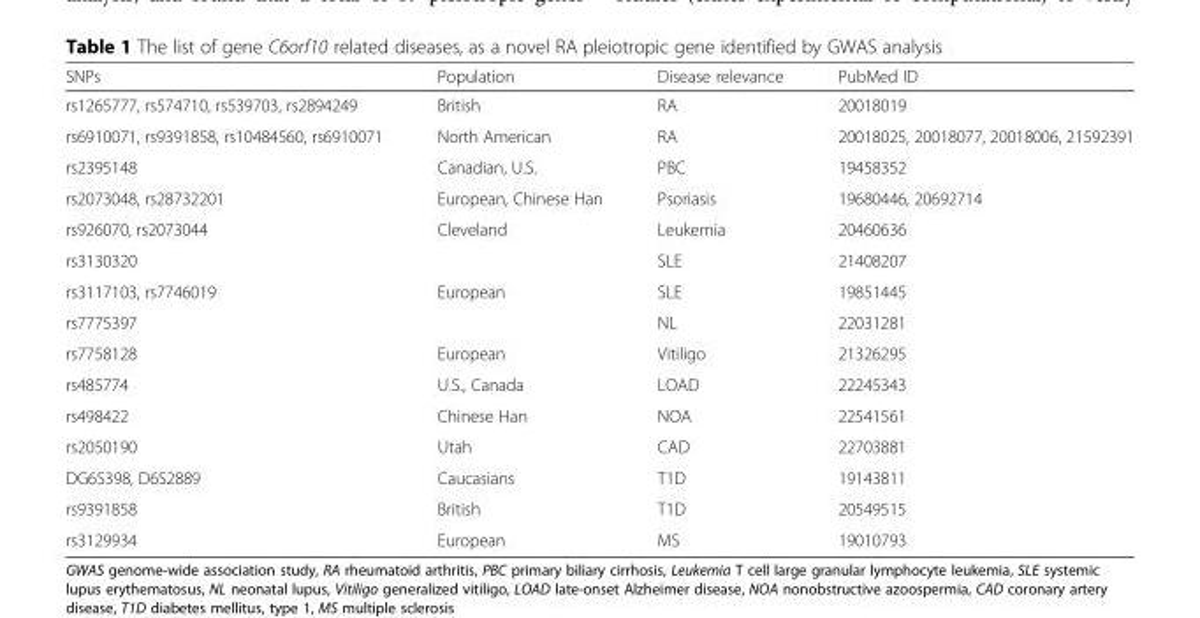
<table><thead><tr><td>SNPs</td><td>Population</td><td>Disease relevance</td><td>PubMed ID</td></tr></thead><tbody><tr><td>rs1265777, rs574710, rs539703, rs2894249</td><td>British</td><td>RA</td><td>20018019</td></tr><tr><td>rs6910071, rs9391858, rs10484560, rs6910071</td><td>North American</td><td>RA</td><td>20018025, 20018077, 20018006, 21592391</td></tr><tr><td>rs2395148</td><td>Canadian, U.S.</td><td>PBC</td><td>19458352</td></tr><tr><td>rs2073048, rs28732201</td><td>European, Chinese Han</td><td>Psoriasis</td><td>19680446, 20692714</td></tr><tr><td>rs926070, rs2073044</td><td>Cleveland</td><td>Leukemia</td><td>20460636</td></tr><tr><td>rs3130320</td><td></td><td>SLE</td><td>21408207</td></tr><tr><td>rs3117103, rs7746019</td><td>European</td><td>SLE</td><td>19851445</td></tr><tr><td>rs7775397</td><td></td><td>NL</td><td>22031281</td></tr><tr><td>rs7758128</td><td>European</td><td>Vitiligo</td><td>21326295</td></tr><tr><td>rs485774</td><td>U.S., Canada</td><td>LOAD</td><td>22245343</td></tr><tr><td>rs498422</td><td>Chinese Han</td><td>NOA</td><td>22541561</td></tr><tr><td>rs2050190</td><td>Utah</td><td>CAD</td><td>22703881</td></tr><tr><td>DG6S398, D6S2889</td><td>Caucasians</td><td>T1D</td><td>19143811</td></tr><tr><td>rs9391858</td><td>British</td><td>T1D</td><td>20549515</td></tr><tr><td>rs3129934</td><td>European</td><td>MS</td><td>19010793</td></tr></tbody></table>